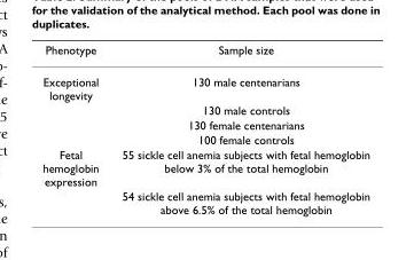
<table><thead><tr><td>Phenotype</td><td>Sample size</td></tr></thead><tbody><tr><td rowspan="4">Exceptional longevity</td><td>130 male centenarians</td></tr><tr><td>130 male controls</td></tr><tr><td>130 female centenarians</td></tr><tr><td>100 female controls</td></tr><tr><td rowspan="2">Fetal hemoglobin expression</td><td>55 sickle cell anemia subjects with fetal hemoglobin below 3% of the total hemoglobin</td></tr><tr><td>54 sickle cell anemia subjects with fetal hemoglobin above 6.5% of the total hemoglobin</td></tr></tbody></table>